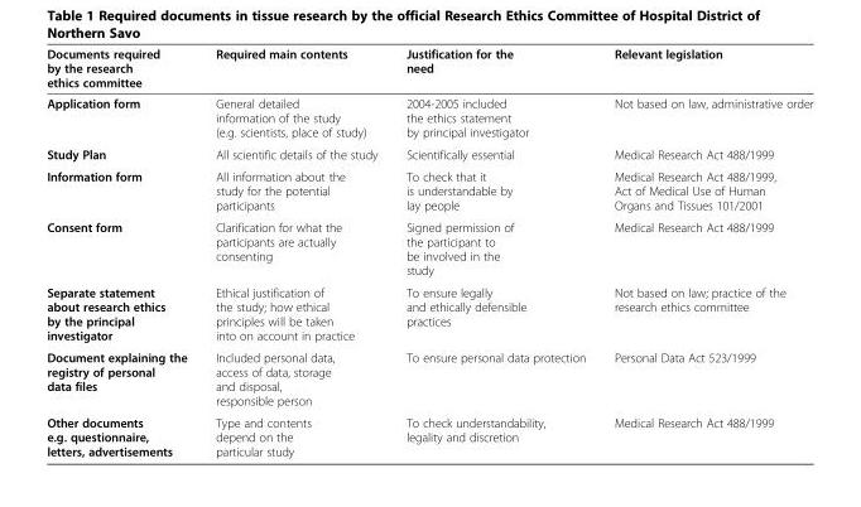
<table><thead><tr><td>Documents required by the research ethics committee</td><td>Required main contents</td><td>Justification for the need</td><td>Relevant legislation</td></tr></thead><tbody><tr><td>Application form</td><td>General detailed information of the study (e.g. scientists, place of study)</td><td>2004-2005 included the ethics statement by principal investigator</td><td>Not based on law, administrative order</td></tr><tr><td>Study Plan</td><td>All scientific details of the study</td><td>Scientifically essential</td><td>Medical Research Act 488/1999</td></tr><tr><td>Information form</td><td>All information about the study for the potential participants</td><td>To check that it is understandable by lay people</td><td>Medical Research Act 488/1999, Act of Medical Use of Human Organs and Tissues 101/2001</td></tr><tr><td>Consent form</td><td>Clarification for what the participants are actually consenting</td><td>Signed permission of the participant to be involved in the study</td><td>Medical Research Act 488/1999</td></tr><tr><td>Separate statement about research ethics by the principal investigator</td><td>Ethical justification of the study; how ethical principles will be taken into on account in practice</td><td>To ensure legally and ethically defensible practices</td><td>Not based on law; practice of the research ethics committee</td></tr><tr><td>Document explaining the registry of personal data files</td><td>Included personal data, access of data, storage and disposal, responsible person</td><td>To ensure personal data protection</td><td>Personal Data Act 523/1999</td></tr><tr><td>Other documents e.g. questionnaire, letters, advertisements</td><td>Type and contents depend on the particular study</td><td>To check understandability, legality and discretion</td><td>Medical Research Act 488/1999</td></tr></tbody></table>